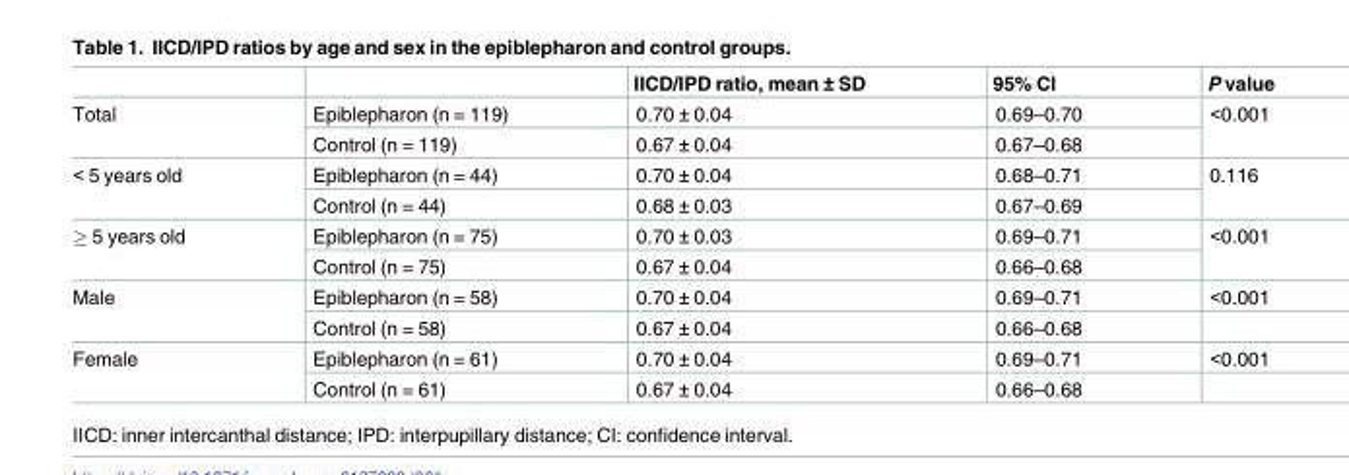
<table><thead><tr><td></td><td></td><td>IICD/IPD ratio, mean ± SD</td><td>95% CI</td><td>P value</td></tr></thead><tbody><tr><td rowspan="2">Total</td><td>Epiblepharon (n = 119)</td><td>0.70 ± 0.04</td><td>0.69–0.70</td><td rowspan="2">&lt;0.001</td></tr><tr><td>Control (n = 119)</td><td>0.67 ± 0.04</td><td>0.67–0.68</td></tr><tr><td rowspan="2">&lt; 5 years old</td><td>Epiblepharon (n = 44)</td><td>0.70 ± 0.04</td><td>0.68–0.71</td><td rowspan="2">0.116</td></tr><tr><td>Control (n = 44)</td><td>0.68 ± 0.03</td><td>0.67–0.69</td></tr><tr><td rowspan="2">≥ 5 years old</td><td>Epiblepharon (n = 75)</td><td>0.70 ± 0.03</td><td>0.69–0.71</td><td rowspan="2">&lt;0.001</td></tr><tr><td>Control (n = 75)</td><td>0.67 ± 0.04</td><td>0.66–0.68</td></tr><tr><td rowspan="2">Male</td><td>Epiblepharon (n = 58)</td><td>0.70 ± 0.04</td><td>0.69–0.71</td><td>&lt;0.001</td></tr><tr><td>Control (n = 58)</td><td>0.67 ± 0.04</td><td>0.66–0.68</td><td></td></tr><tr><td rowspan="2">Female</td><td>Epiblepharon (n = 61)</td><td>0.70 ± 0.04</td><td>0.69–0.71</td><td>&lt;0.001</td></tr><tr><td>Control (n = 61)</td><td>0.67 ± 0.04</td><td>0.66–0.68</td><td></td></tr></tbody></table>